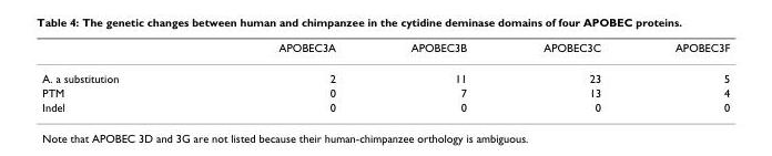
<table><thead><tr><td></td><td>APOBEC3A</td><td>APOBEC3B</td><td>APOBEC3C</td><td>APOBEC3F</td></tr></thead><tbody><tr><td>A. a substitution</td><td>2</td><td>11</td><td>23</td><td>5</td></tr><tr><td>PTM</td><td>0</td><td>7</td><td>13</td><td>4</td></tr><tr><td>Indel</td><td>0</td><td>0</td><td>0</td><td>0</td></tr></tbody></table>